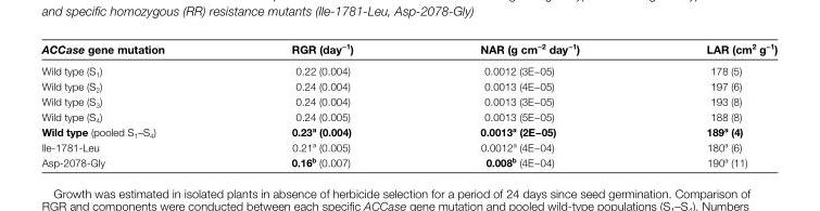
<table><thead><tr><td>ACCase gene mutation</td><td>RGR (day<sup>−1</sup>)</td><td>NAR (g cm<sup>−2</sup> day<sup>−1</sup>)</td><td>LAR (cm<sup>2</sup> g<sup>−1</sup>)</td></tr></thead><tbody><tr><td>Wild type (S<sub>1</sub>)</td><td>0.22 (0.004)</td><td>0.0012 (3E−05)</td><td>178 (5)</td></tr><tr><td>Wild type (S<sub>2</sub>)</td><td>0.24 (0.004)</td><td>0.0013 (4E−05)</td><td>197 (6)</td></tr><tr><td>Wild type (S<sub>3</sub>)</td><td>0.24 (0.004)</td><td>0.0013 (3E−05)</td><td>193 (8)</td></tr><tr><td>Wild type (S<sub>4</sub>)</td><td>0.24 (0.005)</td><td>0.0013 (5E−05)</td><td>188 (8)</td></tr><tr><td>Wild type (pooled S<sub>1</sub>–S<sub>4</sub>)</td><td>0.23<sup>a</sup> (0.004)</td><td>0.0013<sup>a</sup> (2E−05)</td><td>189<sup>a</sup> (4)</td></tr><tr><td>Ile-1781-Leu</td><td>0.21<sup>a</sup> (0.005)</td><td>0.0012<sup>a</sup> (4E−04)</td><td>180<sup>a</sup> (6)</td></tr><tr><td>Asp-2078-Gly</td><td>0.16<sup>b</sup> (0.007)</td><td>0.008<sup>b</sup> (4E−04)</td><td>190<sup>a</sup> (11)</td></tr></tbody></table>